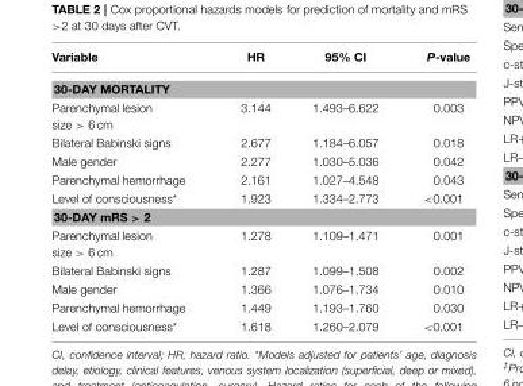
<table><thead><tr><td>Variable</td><td>HR</td><td>95% CI</td><td>P-value</td></tr></thead><tbody><tr><td colspan="4">30-DAY MORTALITY</td></tr><tr><td>Parenchymal lesion size &gt; 6 cm</td><td>3.144</td><td>1.493–6.622</td><td>0.003</td></tr><tr><td>Bilateral Babinski signs</td><td>2.677</td><td>1.184–6.057</td><td>0.018</td></tr><tr><td>Male gender</td><td>2.277</td><td>1.030–5.036</td><td>0.042</td></tr><tr><td>Parenchymal hemorrhage</td><td>2.161</td><td>1.027–4.548</td><td>0.043</td></tr><tr><td>Level of consciousness*</td><td>1.923</td><td>1.334–2.773</td><td>&lt;0.001</td></tr><tr><td colspan="4">30-DAY mRS &gt; 2</td></tr><tr><td>Parenchymal lesion size &gt; 6 cm</td><td>1.278</td><td>1.109–1.471</td><td>0.001</td></tr><tr><td>Bilateral Babinski signs</td><td>1.287</td><td>1.099–1.508</td><td>0.002</td></tr><tr><td>Male gender</td><td>1.366</td><td>1.076–1.734</td><td>0.010</td></tr><tr><td>Parenchymal hemorrhage</td><td>1.449</td><td>1.193–1.760</td><td>0.030</td></tr><tr><td>Level of consciousness*</td><td>1.618</td><td>1.260–2.079</td><td>&lt;0.001</td></tr></tbody></table>